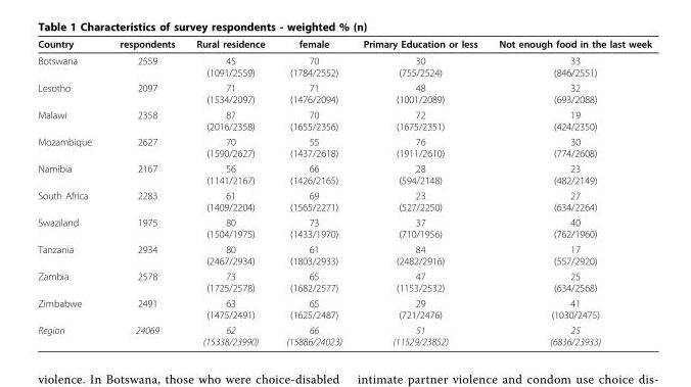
<table><thead><tr><td>Country</td><td>respondents</td><td>Rural residence</td><td>female</td><td>Primary Education or less</td><td>Not enough food in the last week</td></tr></thead><tbody><tr><td>Botswana</td><td>2559</td><td>45 (1091/2559)</td><td>70 (1784/2552)</td><td>30 (755/2524)</td><td>33 (846/2551)</td></tr><tr><td>Lesotho</td><td>2097</td><td>71 (1534/2097)</td><td>71 (1476/2094)</td><td>48 (1001/2089)</td><td>32 (693/2088)</td></tr><tr><td>Malawi</td><td>2358</td><td>87 (2016/2358)</td><td>70 (1655/2356)</td><td>72 (1675/2351)</td><td>19 (424/2350)</td></tr><tr><td>Mozambique</td><td>2627</td><td>70 (1590/2627)</td><td>55 (1437/2618)</td><td>76 (1911/2610)</td><td>30 (774/2608)</td></tr><tr><td>Namibia</td><td>2167</td><td>56 (1141/2167)</td><td>66 (1426/2165)</td><td>28 (594/2148)</td><td>23 (482/2149)</td></tr><tr><td>South Africa</td><td>2283</td><td>61 (1409/2204)</td><td>69 (1565/2271)</td><td>23 (527/2250)</td><td>27 (634/2264)</td></tr><tr><td>Swaziland</td><td>1975</td><td>80 (1504/1975)</td><td>73 (1433/1970)</td><td>37 (710/1956)</td><td>40 (762/1960)</td></tr><tr><td>Tanzania</td><td>2934</td><td>80 (2467/2934)</td><td>61 (1803/2933)</td><td>84 (2482/2916)</td><td>17 (557/2920)</td></tr><tr><td>Zambia</td><td>2578</td><td>73 (1725/2578)</td><td>65 (1682/2577)</td><td>47 (1153/2532)</td><td>25 (634/2568)</td></tr><tr><td>Zimbabwe</td><td>2491</td><td>63 (1475/2491)</td><td>65 (1625/2487)</td><td>29 (721/2476)</td><td>41 (1030/2475)</td></tr><tr><td>Region</td><td>24069</td><td>62 (15338/23990)</td><td>66 (15886/24023)</td><td>51 (11529/23852)</td><td>25 (6836/23933)</td></tr></tbody></table>